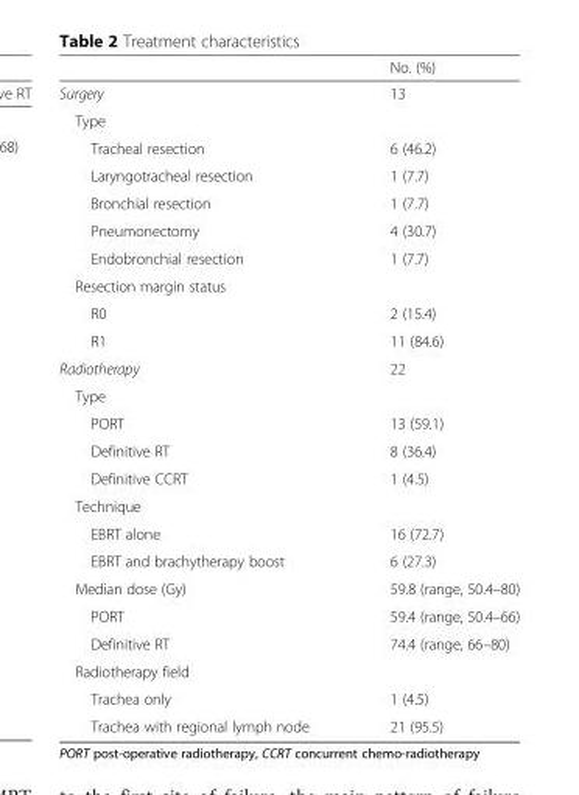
<table><thead><tr><td></td><td>No. (%)</td></tr></thead><tbody><tr><td>Surgery</td><td>13</td></tr><tr><td colspan="2">Type</td></tr><tr><td>Tracheal resection</td><td>6 (46.2)</td></tr><tr><td>Laryngotracheal resection</td><td>1 (7.7)</td></tr><tr><td>Bronchial resection</td><td>1 (7.7)</td></tr><tr><td>Pneumonectomy</td><td>4 (30.7)</td></tr><tr><td>Endobronchial resection</td><td>1 (7.7)</td></tr><tr><td colspan="2">Resection margin status</td></tr><tr><td>R0</td><td>2 (15.4)</td></tr><tr><td>R1</td><td>11 (84.6)</td></tr><tr><td>Radiotherapy</td><td>22</td></tr><tr><td colspan="2">Type</td></tr><tr><td>PORT</td><td>13 (59.1)</td></tr><tr><td>Definitive RT</td><td>8 (36.4)</td></tr><tr><td>Definitive CCRT</td><td>1 (4.5)</td></tr><tr><td colspan="2">Technique</td></tr><tr><td>EBRT alone</td><td>16 (72.7)</td></tr><tr><td>EBRT and brachytherapy boost</td><td>6 (27.3)</td></tr><tr><td>Median dose (Gy)</td><td>59.8 (range, 50.4–80)</td></tr><tr><td>PORT</td><td>59.4 (range, 50.4–66)</td></tr><tr><td>Definitive RT</td><td>74.4 (range, 66–80)</td></tr><tr><td colspan="2">Radiotherapy field</td></tr><tr><td>Trachea only</td><td>1 (4.5)</td></tr><tr><td>Trachea with regional lymph node</td><td>21 (95.5)</td></tr></tbody></table>